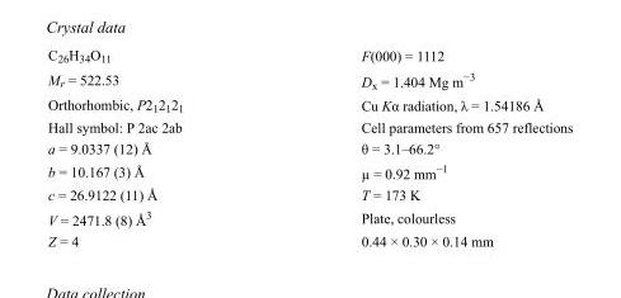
<table><tbody><tr><td>C<sub>26</sub>H<sub>34</sub>O<sub>11</sub></td><td>F(000) = 1112</td></tr><tr><td>M<sub>r</sub> = 522.53</td><td>D<sub>x</sub> = 1.404 Mg m<sup>−3</sup></td></tr><tr><td>Orthorhombic, P2<sub>1</sub>2<sub>1</sub>2<sub>1</sub></td><td>Cu Kα radiation, λ = 1.54186 Å</td></tr><tr><td>Hall symbol: P 2ac 2ab</td><td>Cell parameters from 657 reflections</td></tr><tr><td>a = 9.0337 (12) Å</td><td>θ = 3.1–66.2°</td></tr><tr><td>b = 10.167 (3) Å</td><td>µ = 0.92 mm<sup>−1</sup></td></tr><tr><td>c = 26.9122 (11) Å</td><td>T = 173 K</td></tr><tr><td>V = 2471.8 (8) Å<sup>3</sup></td><td>Plate, colourless</td></tr><tr><td>Z = 4</td><td>0.44 × 0.30 × 0.14 mm</td></tr></tbody></table>